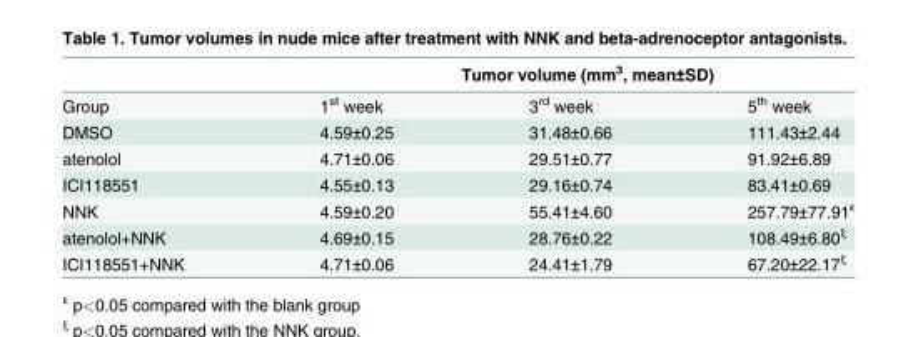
<table><thead><tr><td rowspan="2">Group</td><td colspan="3">Tumor volume (mm<sup>3</sup>, mean±SD)</td></tr><tr><td>1<sup>st</sup> week</td><td>3<sup>rd</sup> week</td><td>5<sup>th</sup> week</td></tr></thead><tbody><tr><td>DMSO</td><td>4.59±0.25</td><td>31.48±0.66</td><td>111.43±2.44</td></tr><tr><td>atenolol</td><td>4.71±0.06</td><td>29.51±0.77</td><td>91.92±6.89</td></tr><tr><td>ICI118551</td><td>4.55±0.13</td><td>29.16±0.74</td><td>83.41±0.69</td></tr><tr><td>NNK</td><td>4.59±0.20</td><td>55.41±4.60</td><td>257.79±77.91<sup>ε</sup></td></tr><tr><td>atenolol+NNK</td><td>4.69±0.15</td><td>28.76±0.22</td><td>108.49±6.80<sup>ξ</sup></td></tr><tr><td>ICI118551+NNK</td><td>4.71±0.06</td><td>24.41±1.79</td><td>67.20±22.17<sup>ξ</sup></td></tr></tbody></table>